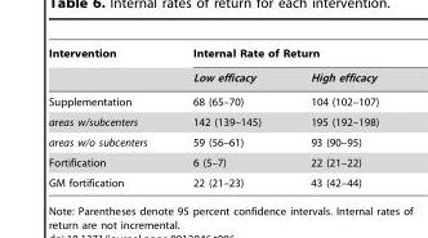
<table><thead><tr><td rowspan="2">Intervention</td><td colspan="2">Internal Rate of Return</td></tr><tr><td>Low efficacy</td><td>High efficacy</td></tr></thead><tbody><tr><td>Supplementation</td><td>68 (65–70)</td><td>104 (102–107)</td></tr><tr><td>areas w/subcenters</td><td>142 (139–145)</td><td>195 (192–198)</td></tr><tr><td>areas w/o subcenters</td><td>59 (56–61)</td><td>93 (90–95)</td></tr><tr><td>Fortification</td><td>6 (5–7)</td><td>22 (21–22)</td></tr><tr><td>GM fortification</td><td>22 (21–23)</td><td>43 (42–44)</td></tr></tbody></table>